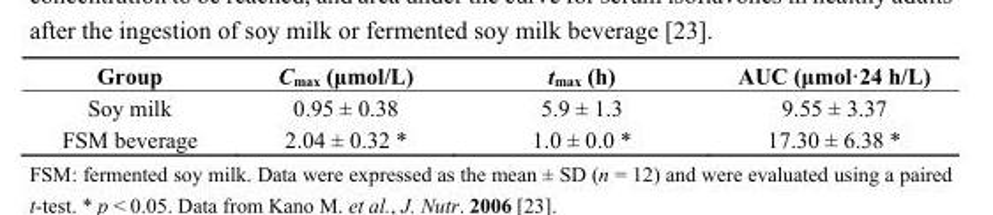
<table><thead><tr><td>Group</td><td>C<sub>max</sub> (μmol/L)</td><td>t<sub>max</sub> (h)</td><td>AUC (μmol·24 h/L)</td></tr></thead><tbody><tr><td>Soy milk</td><td>0.95 ± 0.38</td><td>5.9 ± 1.3</td><td>9.55 ± 3.37</td></tr><tr><td>FSM beverage</td><td>2.04 ± 0.32 *</td><td>1.0 ± 0.0 *</td><td>17.30 ± 6.38 *</td></tr></tbody></table>